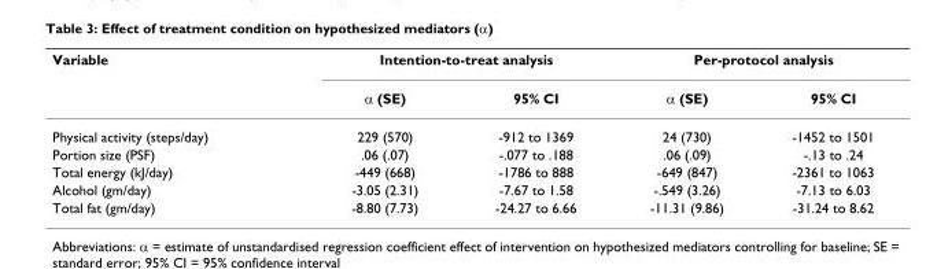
<table><thead><tr><td rowspan="2">Variable</td><td colspan="2">Intention-to-treat analysis</td><td colspan="2">Per-protocol analysis</td></tr><tr><td>α (SE)</td><td>95% CI</td><td>α (SE)</td><td>95% CI</td></tr></thead><tbody><tr><td>Physical activity (steps/day)</td><td>229 (570)</td><td>-912 to 1369</td><td>24 (730)</td><td>-1452 to 1501</td></tr><tr><td>Portion size (PSF)</td><td>.06 (.07)</td><td>-.077 to .188</td><td>.06 (.09)</td><td>-.13 to .24</td></tr><tr><td>Total energy (kJ/day)</td><td>-449 (668)</td><td>-1786 to 888</td><td>-649 (847)</td><td>-2361 to 1063</td></tr><tr><td>Alcohol (gm/day)</td><td>-3.05 (2.31)</td><td>-7.67 to 1.58</td><td>-.549 (3.26)</td><td>-7.13 to 6.03</td></tr><tr><td>Total fat (gm/day)</td><td>-8.80 (7.73)</td><td>-24.27 to 6.66</td><td>-11.31 (9.86)</td><td>-31.24 to 8.62</td></tr></tbody></table>